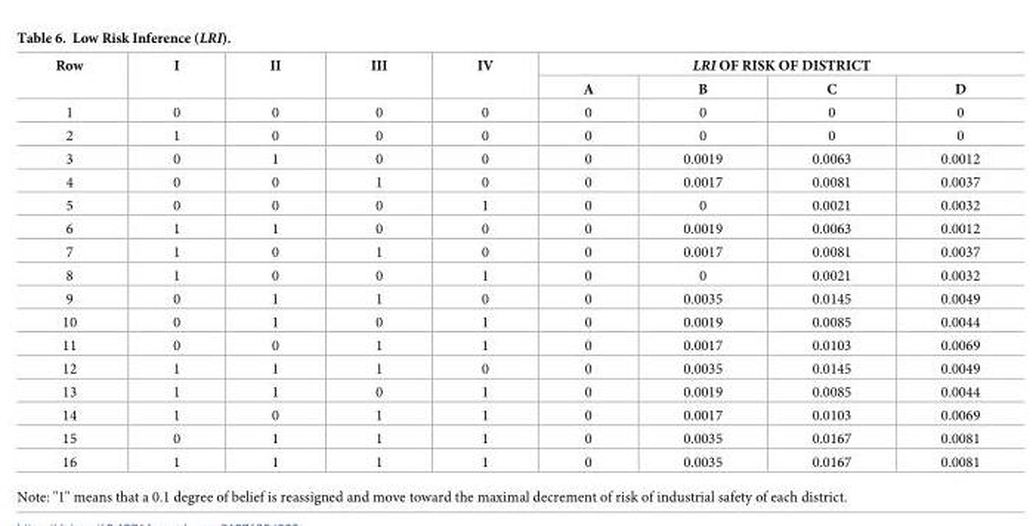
<table><thead><tr><td rowspan="2">Row</td><td rowspan="2">I</td><td rowspan="2">II</td><td rowspan="2">III</td><td rowspan="2">IV</td><td colspan="4">LRI OF RISK OF DISTRICT</td></tr><tr><td>A</td><td>B</td><td>C</td><td>D</td></tr></thead><tbody><tr><td>1</td><td>0</td><td>0</td><td>0</td><td>0</td><td>0</td><td>0</td><td>0</td><td>0</td></tr><tr><td>2</td><td>1</td><td>0</td><td>0</td><td>0</td><td>0</td><td>0</td><td>0</td><td>0</td></tr><tr><td>3</td><td>0</td><td>1</td><td>0</td><td>0</td><td>0</td><td>0.0019</td><td>0.0063</td><td>0.0012</td></tr><tr><td>4</td><td>0</td><td>0</td><td>1</td><td>0</td><td>0</td><td>0.0017</td><td>0.0081</td><td>0.0037</td></tr><tr><td>5</td><td>0</td><td>0</td><td>0</td><td>1</td><td>0</td><td>0</td><td>0.0021</td><td>0.0032</td></tr><tr><td>6</td><td>1</td><td>1</td><td>0</td><td>0</td><td>0</td><td>0.0019</td><td>0.0063</td><td>0.0012</td></tr><tr><td>7</td><td>1</td><td>0</td><td>1</td><td>0</td><td>0</td><td>0.0017</td><td>0.0081</td><td>0.0037</td></tr><tr><td>8</td><td>1</td><td>0</td><td>0</td><td>1</td><td>0</td><td>0</td><td>0.0021</td><td>0.0032</td></tr><tr><td>9</td><td>0</td><td>1</td><td>1</td><td>0</td><td>0</td><td>0.0035</td><td>0.0145</td><td>0.0049</td></tr><tr><td>10</td><td>0</td><td>1</td><td>0</td><td>1</td><td>0</td><td>0.0019</td><td>0.0085</td><td>0.0044</td></tr><tr><td>11</td><td>0</td><td>0</td><td>1</td><td>1</td><td>0</td><td>0.0017</td><td>0.0103</td><td>0.0069</td></tr><tr><td>12</td><td>1</td><td>1</td><td>1</td><td>0</td><td>0</td><td>0.0035</td><td>0.0145</td><td>0.0049</td></tr><tr><td>13</td><td>1</td><td>1</td><td>0</td><td>1</td><td>0</td><td>0.0019</td><td>0.0085</td><td>0.0044</td></tr><tr><td>14</td><td>1</td><td>0</td><td>1</td><td>1</td><td>0</td><td>0.0017</td><td>0.0103</td><td>0.0069</td></tr><tr><td>15</td><td>0</td><td>1</td><td>1</td><td>1</td><td>0</td><td>0.0035</td><td>0.0167</td><td>0.0081</td></tr><tr><td>16</td><td>1</td><td>1</td><td>1</td><td>1</td><td>0</td><td>0.0035</td><td>0.0167</td><td>0.0081</td></tr></tbody></table>